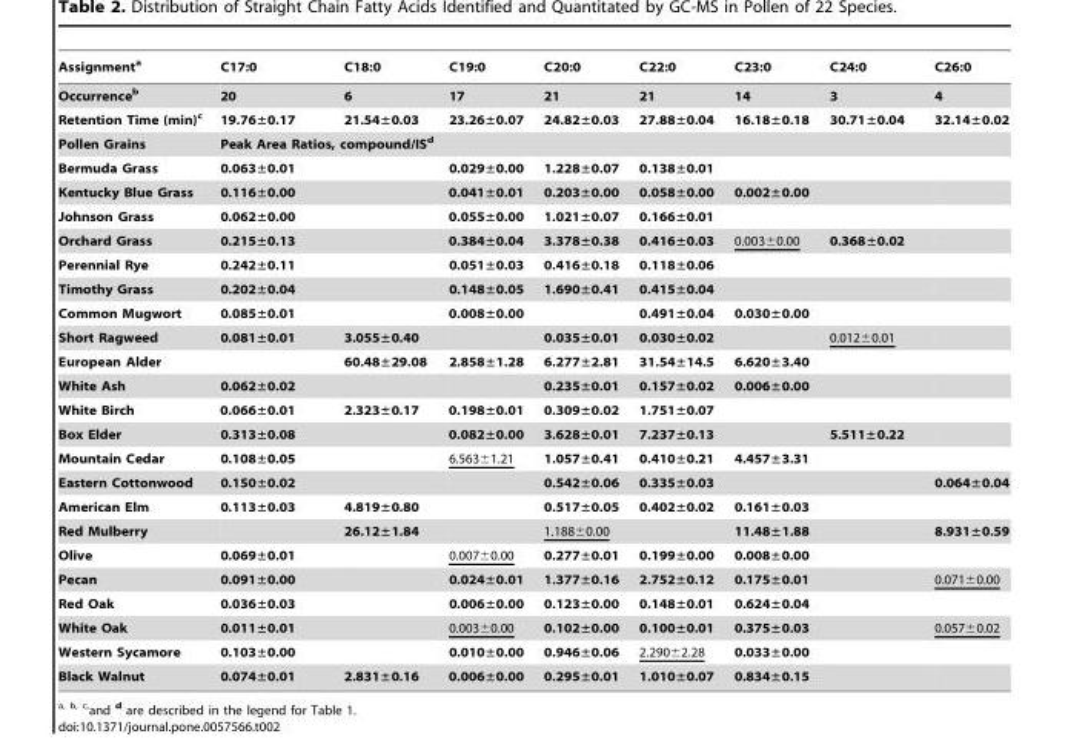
<table><thead><tr><td>Assignment<sup>a</sup></td><td>C17:0</td><td>C18:0</td><td>C19:0</td><td>C20:0</td><td>C22:0</td><td>C23:0</td><td>C24:0</td><td>C26:0</td></tr></thead><tbody><tr><td>Occurrence<sup>b</sup></td><td>20</td><td>6</td><td>17</td><td>21</td><td>21</td><td>14</td><td>3</td><td>4</td></tr><tr><td>Retention Time (min)<sup>c</sup></td><td>19.76±0.17</td><td>21.54±0.03</td><td>23.26±0.07</td><td>24.82±0.03</td><td>27.88±0.04</td><td>16.18±0.18</td><td>30.71±0.04</td><td>32.14±0.02</td></tr><tr><td>Pollen Grains</td><td colspan="8">Peak Area Ratios, compound/IS<sup>d</sup></td></tr><tr><td>Bermuda Grass</td><td>0.063±0.01</td><td></td><td>0.029±0.00</td><td>1.228±0.07</td><td>0.138±0.01</td><td></td><td></td><td></td></tr><tr><td>Kentucky Blue Grass</td><td>0.116±0.00</td><td></td><td>0.041±0.01</td><td>0.203±0.00</td><td>0.058±0.00</td><td>0.002±0.00</td><td></td><td></td></tr><tr><td>Johnson Grass</td><td>0.062±0.00</td><td></td><td>0.055±0.00</td><td>1.021±0.07</td><td>0.166±0.01</td><td></td><td></td><td></td></tr><tr><td>Orchard Grass</td><td>0.215±0.13</td><td></td><td>0.384±0.04</td><td>3.378±0.38</td><td>0.416±0.03</td><td>0.003±0.00</td><td>0.368±0.02</td><td></td></tr><tr><td>Perennial Rye</td><td>0.242±0.11</td><td></td><td>0.051±0.03</td><td>0.416±0.18</td><td>0.118±0.06</td><td></td><td></td><td></td></tr><tr><td>Timothy Grass</td><td>0.202±0.04</td><td></td><td>0.148±0.05</td><td>1.690±0.41</td><td>0.415±0.04</td><td></td><td></td><td></td></tr><tr><td>Common Mugwort</td><td>0.085±0.01</td><td></td><td>0.008±0.00</td><td></td><td>0.491±0.04</td><td>0.030±0.00</td><td></td><td></td></tr><tr><td>Short Ragweed</td><td>0.081±0.01</td><td>3.055±0.40</td><td></td><td>0.035±0.01</td><td>0.030±0.02</td><td></td><td>0.012±0.01</td><td></td></tr><tr><td>European Alder</td><td></td><td>60.48±29.08</td><td>2.858±1.28</td><td>6.277±2.81</td><td>31.54±14.5</td><td>6.620±3.40</td><td></td><td></td></tr><tr><td>White Ash</td><td>0.062±0.02</td><td></td><td></td><td>0.235±0.01</td><td>0.157±0.02</td><td>0.006±0.00</td><td></td><td></td></tr><tr><td>White Birch</td><td>0.066±0.01</td><td>2.323±0.17</td><td>0.198±0.01</td><td>0.309±0.02</td><td>1.751±0.07</td><td></td><td></td><td></td></tr><tr><td>Box Elder</td><td>0.313±0.08</td><td></td><td>0.082±0.00</td><td>3.628±0.01</td><td>7.237±0.13</td><td></td><td>5.511±0.22</td><td></td></tr><tr><td>Mountain Cedar</td><td>0.108±0.05</td><td></td><td>6.563±1.21</td><td>1.057±0.41</td><td>0.410±0.21</td><td>4.457±3.31</td><td></td><td></td></tr><tr><td>Eastern Cottonwood</td><td>0.150±0.02</td><td></td><td></td><td>0.542±0.06</td><td>0.335±0.03</td><td></td><td></td><td>0.064±0.04</td></tr><tr><td>American Elm</td><td>0.113±0.03</td><td>4.819±0.80</td><td></td><td>0.517±0.05</td><td>0.402±0.02</td><td>0.161±0.03</td><td></td><td></td></tr><tr><td>Red Mulberry</td><td></td><td>26.12±1.84</td><td></td><td>1.188±0.00</td><td></td><td>11.48±1.88</td><td></td><td>8.931±0.59</td></tr><tr><td>Olive</td><td>0.069±0.01</td><td></td><td>0.007±0.00</td><td>0.277±0.01</td><td>0.199±0.00</td><td>0.008±0.00</td><td></td><td></td></tr><tr><td>Pecan</td><td>0.091±0.00</td><td></td><td>0.024±0.01</td><td>1.377±0.16</td><td>2.752±0.12</td><td>0.175±0.01</td><td></td><td>0.071±0.00</td></tr><tr><td>Red Oak</td><td>0.036±0.03</td><td></td><td>0.006±0.00</td><td>0.123±0.00</td><td>0.148±0.01</td><td>0.624±0.04</td><td></td><td></td></tr><tr><td>White Oak</td><td>0.011±0.01</td><td></td><td>0.003±0.00</td><td>0.102±0.00</td><td>0.100±0.01</td><td>0.375±0.03</td><td></td><td>0.057±0.02</td></tr><tr><td>Western Sycamore</td><td>0.103±0.00</td><td></td><td>0.010±0.00</td><td>0.946±0.06</td><td>2.290±2.28</td><td>0.033±0.00</td><td></td><td></td></tr><tr><td>Black Walnut</td><td>0.074±0.01</td><td>2.831±0.16</td><td>0.006±0.00</td><td>0.295±0.01</td><td>1.010±0.07</td><td>0.834±0.15</td><td></td><td></td></tr></tbody></table>